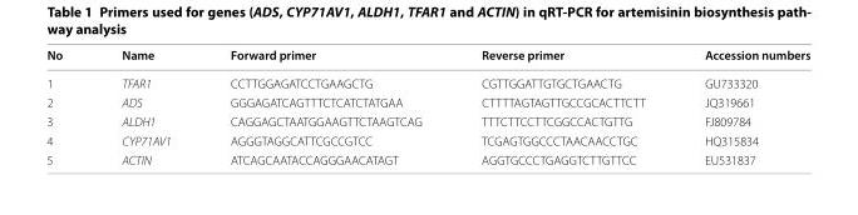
<table><thead><tr><td>No</td><td>Name</td><td>Forward primer</td><td>Reverse primer</td><td>Accession numbers</td></tr></thead><tbody><tr><td>1</td><td>TFAR1</td><td>CCTTGGAGATCCTGAAGCTG</td><td>CGTTGGATTGTGCTGAACTG</td><td>GU733320</td></tr><tr><td>2</td><td>ADS</td><td>GGGAGATCAGTTTCTCATCTATGAA</td><td>CTTTTAGTAGTTGCCGCACTTCTT</td><td>JQ319661</td></tr><tr><td>3</td><td>ALDH1</td><td>CAGGAGCTAATGGAAGTTCTAAGTCAG</td><td>TTTCTTCCTTCGGCCACTGTTG</td><td>FJ809784</td></tr><tr><td>4</td><td>CYP71AV1</td><td>AGGGTAGGCATTCGCCGTCC</td><td>TCGAGTGGCCCTAACAACCTGC</td><td>HQ315834</td></tr><tr><td>5</td><td>ACTIN</td><td>ATCAGCAATACCAGGGAACATAGT</td><td>AGGTGCCCTGAGGTCTTGTTCC</td><td>EU531837</td></tr></tbody></table>